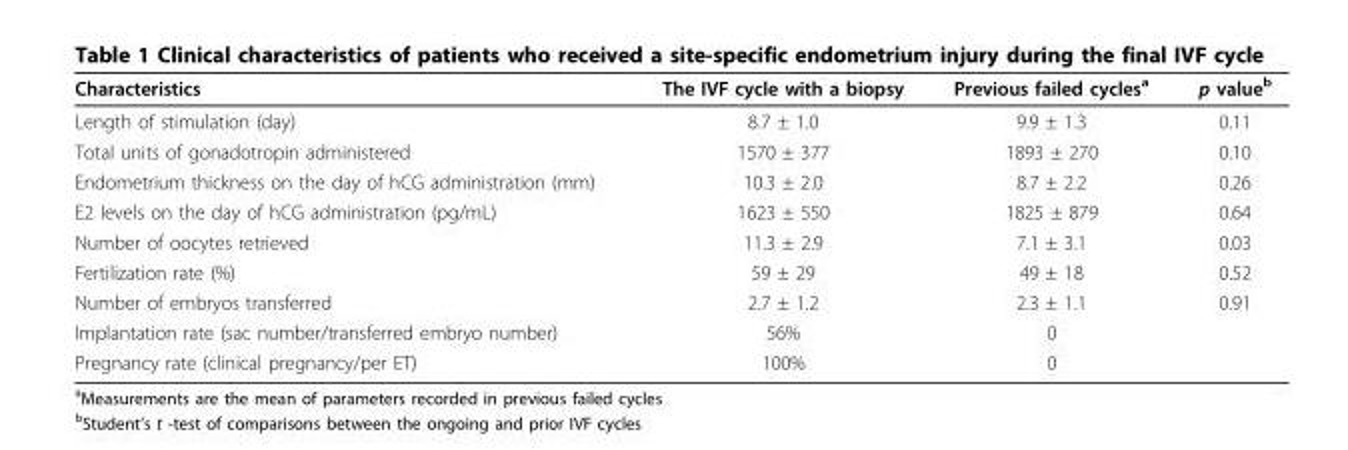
<table><thead><tr><td>Characteristics</td><td>The IVF cycle with a biopsy</td><td>Previous failed cycles<sup>a</sup></td><td>p value<sup>b</sup></td></tr></thead><tbody><tr><td>Length of stimulation (day)</td><td>8.7 ± 1.0</td><td>9.9 ± 1.3</td><td>0.11</td></tr><tr><td>Total units of gonadotropin administered</td><td>1570 ± 377</td><td>1893 ± 270</td><td>0.10</td></tr><tr><td>Endometrium thickness on the day of hCG administration (mm)</td><td>10.3 ± 2.0</td><td>8.7 ± 2.2</td><td>0.26</td></tr><tr><td>E2 levels on the day of hCG administration (pg/mL)</td><td>1623 ± 550</td><td>1825 ± 879</td><td>0.64</td></tr><tr><td>Number of oocytes retrieved</td><td>11.3 ± 2.9</td><td>7.1 ± 3.1</td><td>0.03</td></tr><tr><td>Fertilization rate (%)</td><td>59 ± 29</td><td>49 ± 18</td><td>0.52</td></tr><tr><td>Number of embryos transferred</td><td>2.7 ± 1.2</td><td>2.3 ± 1.1</td><td>0.91</td></tr><tr><td>Implantation rate (sac number/transferred embryo number)</td><td>56%</td><td>0</td><td></td></tr><tr><td>Pregnancy rate (clinical pregnancy/per ET)</td><td>100%</td><td>0</td><td></td></tr></tbody></table>